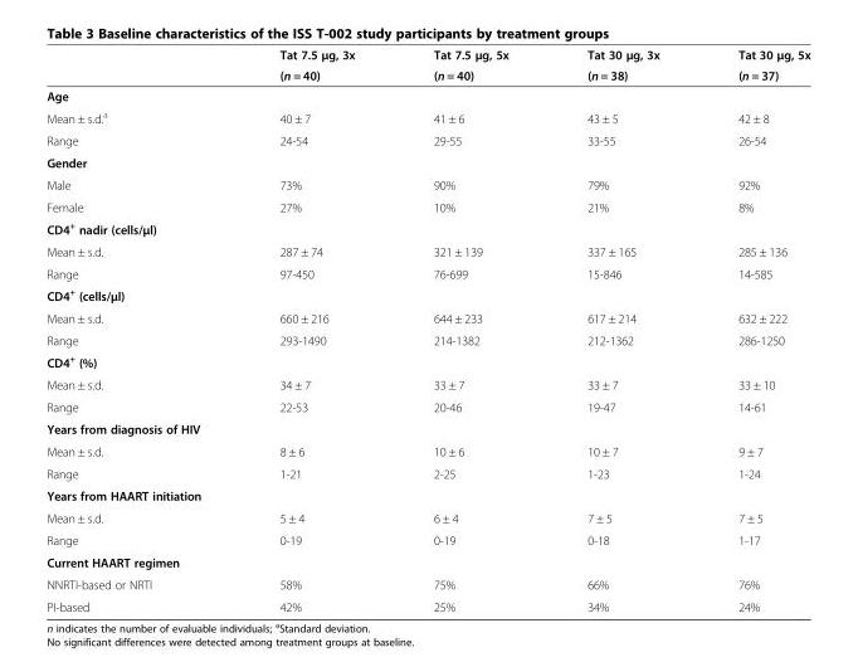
<table><thead><tr><td rowspan="2"></td><td rowspan="2">Tat 7.5 μg, 3x (n = 40)</td><td rowspan="2">Tat 7.5 μg, 5x (n = 40)</td><td rowspan="2">Tat 30 μg, 3x (n = 38)</td><td rowspan="2">Tat 30 μg, 5x (n = 37)</td></tr><tr></tr></thead><tbody><tr><td colspan="5">Age</td></tr><tr><td>Mean ± s.d.<sup>a</sup></td><td>40 ± 7</td><td>41 ± 6</td><td>43 ± 5</td><td>42 ± 8</td></tr><tr><td>Range</td><td>24-54</td><td>29-55</td><td>33-55</td><td>26-54</td></tr><tr><td colspan="5">Gender</td></tr><tr><td>Male</td><td>73%</td><td>90%</td><td>79%</td><td>92%</td></tr><tr><td>Female</td><td>27%</td><td>10%</td><td>21%</td><td>8%</td></tr><tr><td colspan="5">CD4<sup>+</sup> nadir (cells/μl)</td></tr><tr><td>Mean ± s.d.</td><td>287 ± 74</td><td>321 ± 139</td><td>337 ± 165</td><td>285 ± 136</td></tr><tr><td>Range</td><td>97-450</td><td>76-699</td><td>15-846</td><td>14-585</td></tr><tr><td colspan="5">CD4<sup>+</sup> (cells/μl)</td></tr><tr><td>Mean ± s.d.</td><td>660 ± 216</td><td>644 ± 233</td><td>617 ± 214</td><td>632 ± 222</td></tr><tr><td>Range</td><td>293-1490</td><td>214-1382</td><td>212-1362</td><td>286-1250</td></tr><tr><td colspan="5">CD4<sup>+</sup> (%)</td></tr><tr><td>Mean ± s.d.</td><td>34 ± 7</td><td>33 ± 7</td><td>33 ± 7</td><td>33 ± 10</td></tr><tr><td>Range</td><td>22-53</td><td>20-46</td><td>19-47</td><td>14-61</td></tr><tr><td colspan="5">Years from diagnosis of HIV</td></tr><tr><td>Mean ± s.d.</td><td>8 ± 6</td><td>10 ± 6</td><td>10 ± 7</td><td>9 ± 7</td></tr><tr><td>Range</td><td>1-21</td><td>2-25</td><td>1-23</td><td>1-24</td></tr><tr><td colspan="5">Years from HAART initiation</td></tr><tr><td>Mean ± s.d.</td><td>5 ± 4</td><td>6 ± 4</td><td>7 ± 5</td><td>7 ± 5</td></tr><tr><td>Range</td><td>0-19</td><td>0-19</td><td>0-18</td><td>1-17</td></tr><tr><td colspan="5">Current HAART regimen</td></tr><tr><td>NNRTI-based or NRTI</td><td>58%</td><td>75%</td><td>66%</td><td>76%</td></tr><tr><td>PI-based</td><td>42%</td><td>25%</td><td>34%</td><td>24%</td></tr></tbody></table>